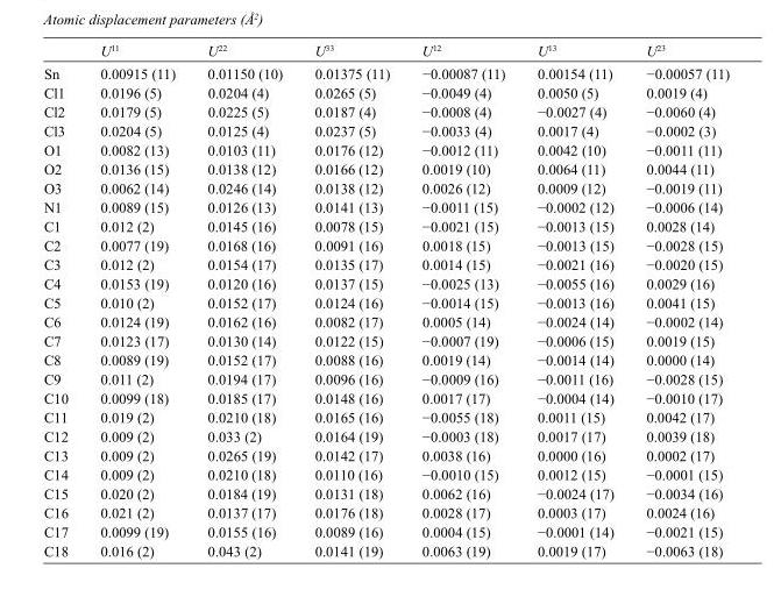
<table><thead><tr><td></td><td>U<sup>11</sup></td><td>U<sup>22</sup></td><td>U<sup>33</sup></td><td>U<sup>12</sup></td><td>U<sup>13</sup></td><td>U<sup>23</sup></td></tr></thead><tbody><tr><td>Sn</td><td>0.00915 (11)</td><td>0.01150 (10)</td><td>0.01375 (11)</td><td>−0.00087 (11)</td><td>0.00154 (11)</td><td>−0.00057 (11)</td></tr><tr><td>Cl1</td><td>0.0196 (5)</td><td>0.0204 (4)</td><td>0.0265 (5)</td><td>−0.0049 (4)</td><td>0.0050 (5)</td><td>0.0019 (4)</td></tr><tr><td>Cl2</td><td>0.0179 (5)</td><td>0.0225 (5)</td><td>0.0187 (4)</td><td>−0.0008 (4)</td><td>−0.0027 (4)</td><td>−0.0060 (4)</td></tr><tr><td>Cl3</td><td>0.0204 (5)</td><td>0.0125 (4)</td><td>0.0237 (5)</td><td>−0.0033 (4)</td><td>0.0017 (4)</td><td>−0.0002 (3)</td></tr><tr><td>O1</td><td>0.0082 (13)</td><td>0.0103 (11)</td><td>0.0176 (12)</td><td>−0.0012 (11)</td><td>0.0042 (10)</td><td>−0.0011 (11)</td></tr><tr><td>O2</td><td>0.0136 (15)</td><td>0.0138 (12)</td><td>0.0166 (12)</td><td>0.0019 (10)</td><td>0.0064 (11)</td><td>0.0044 (11)</td></tr><tr><td>O3</td><td>0.0062 (14)</td><td>0.0246 (14)</td><td>0.0138 (12)</td><td>0.0026 (12)</td><td>0.0009 (12)</td><td>−0.0019 (11)</td></tr><tr><td>N1</td><td>0.0089 (15)</td><td>0.0126 (13)</td><td>0.0141 (13)</td><td>−0.0011 (15)</td><td>−0.0002 (12)</td><td>−0.0006 (14)</td></tr><tr><td>C1</td><td>0.012 (2)</td><td>0.0145 (16)</td><td>0.0078 (15)</td><td>−0.0021 (15)</td><td>−0.0013 (15)</td><td>0.0028 (14)</td></tr><tr><td>C2</td><td>0.0077 (19)</td><td>0.0168 (16)</td><td>0.0091 (16)</td><td>0.0018 (15)</td><td>−0.0013 (15)</td><td>−0.0028 (15)</td></tr><tr><td>C3</td><td>0.012 (2)</td><td>0.0154 (17)</td><td>0.0135 (17)</td><td>0.0014 (15)</td><td>−0.0021 (16)</td><td>−0.0020 (15)</td></tr><tr><td>C4</td><td>0.0153 (19)</td><td>0.0120 (16)</td><td>0.0137 (15)</td><td>−0.0025 (13)</td><td>−0.0055 (16)</td><td>0.0029 (16)</td></tr><tr><td>C5</td><td>0.010 (2)</td><td>0.0152 (17)</td><td>0.0124 (16)</td><td>−0.0014 (15)</td><td>−0.0013 (16)</td><td>0.0041 (15)</td></tr><tr><td>C6</td><td>0.0124 (19)</td><td>0.0162 (16)</td><td>0.0082 (17)</td><td>0.0005 (14)</td><td>−0.0024 (14)</td><td>−0.0002 (14)</td></tr><tr><td>C7</td><td>0.0123 (17)</td><td>0.0130 (14)</td><td>0.0122 (15)</td><td>−0.0007 (19)</td><td>−0.0006 (15)</td><td>0.0019 (15)</td></tr><tr><td>C8</td><td>0.0089 (19)</td><td>0.0152 (17)</td><td>0.0088 (16)</td><td>0.0019 (14)</td><td>−0.0014 (14)</td><td>0.0000 (14)</td></tr><tr><td>C9</td><td>0.011 (2)</td><td>0.0194 (17)</td><td>0.0096 (16)</td><td>−0.0009 (16)</td><td>−0.0011 (16)</td><td>−0.0028 (15)</td></tr><tr><td>C10</td><td>0.0099 (18)</td><td>0.0185 (17)</td><td>0.0148 (16)</td><td>0.0017 (17)</td><td>−0.0004 (14)</td><td>−0.0010 (17)</td></tr><tr><td>C11</td><td>0.019 (2)</td><td>0.0210 (18)</td><td>0.0165 (16)</td><td>−0.0055 (18)</td><td>0.0011 (15)</td><td>0.0042 (17)</td></tr><tr><td>C12</td><td>0.009 (2)</td><td>0.033 (2)</td><td>0.0164 (19)</td><td>−0.0003 (18)</td><td>0.0017 (17)</td><td>0.0039 (18)</td></tr><tr><td>C13</td><td>0.009 (2)</td><td>0.0265 (19)</td><td>0.0142 (17)</td><td>0.0038 (16)</td><td>0.0000 (16)</td><td>0.0002 (17)</td></tr><tr><td>C14</td><td>0.009 (2)</td><td>0.0210 (18)</td><td>0.0110 (16)</td><td>−0.0010 (15)</td><td>0.0012 (15)</td><td>−0.0001 (15)</td></tr><tr><td>C15</td><td>0.020 (2)</td><td>0.0184 (19)</td><td>0.0131 (18)</td><td>0.0062 (16)</td><td>−0.0024 (17)</td><td>−0.0034 (16)</td></tr><tr><td>C16</td><td>0.021 (2)</td><td>0.0137 (17)</td><td>0.0176 (18)</td><td>0.0028 (17)</td><td>0.0003 (17)</td><td>0.0024 (16)</td></tr><tr><td>C17</td><td>0.0099 (19)</td><td>0.0155 (16)</td><td>0.0089 (16)</td><td>0.0004 (15)</td><td>−0.0001 (14)</td><td>−0.0021 (15)</td></tr><tr><td>C18</td><td>0.016 (2)</td><td>0.043 (2)</td><td>0.0141 (19)</td><td>0.0063 (19)</td><td>0.0019 (17)</td><td>−0.0063 (18)</td></tr></tbody></table>